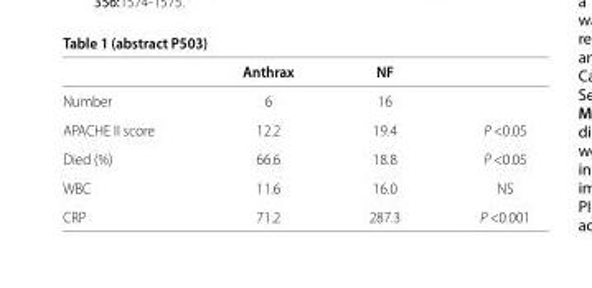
<table><thead><tr><td></td><td>Anthrax</td><td>NF</td><td></td></tr></thead><tbody><tr><td>Number</td><td>6</td><td>16</td><td></td></tr><tr><td>APACHE II score</td><td>12.2</td><td>19.4</td><td>P &lt;0.05</td></tr><tr><td>Died (%)</td><td>66.6</td><td>18.8</td><td>P &lt;0.05</td></tr><tr><td>WBC</td><td>11.6</td><td>16.0</td><td>NS</td></tr><tr><td>CRP</td><td>71.2</td><td>287.3</td><td>P &lt;0.001</td></tr></tbody></table>